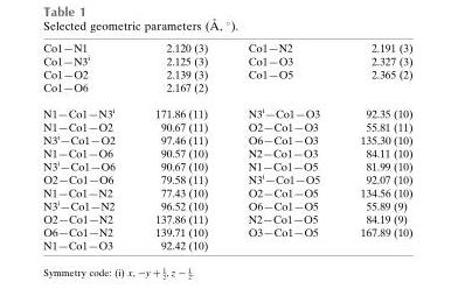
<table><tbody><tr><td>Co1—N1</td><td>2.120 (3)</td><td>Co1—N2</td><td>2.191 (3)</td></tr><tr><td>Co1—N3<sup>i</sup></td><td>2.125 (3)</td><td>Co1—O3</td><td>2.327 (3)</td></tr><tr><td>Co1—O2</td><td>2.139 (3)</td><td>Co1—O5</td><td>2.365 (2)</td></tr><tr><td>Co1—O6</td><td>2.167 (2)</td><td></td><td></td></tr><tr><td>N1—Co1—N3<sup>i</sup></td><td>171.86 (11)</td><td>N3<sup>i</sup>—Co1—O3</td><td>92.35 (10)</td></tr><tr><td>N1—Co1—O2</td><td>90.67 (11)</td><td>O2—Co1—O3</td><td>55.81 (11)</td></tr><tr><td>N3<sup>i</sup>—Co1—O2</td><td>97.46 (11)</td><td>O6—Co1—O3</td><td>135.30 (10)</td></tr><tr><td>N1—Co1—O6</td><td>90.57 (10)</td><td>N2—Co1—O3</td><td>84.11 (10)</td></tr><tr><td>N3<sup>i</sup>—Co1—O6</td><td>90.67 (10)</td><td>N1—Co1—O5</td><td>81.99 (10)</td></tr><tr><td>O2—Co1—O6</td><td>79.58 (11)</td><td>N3<sup>i</sup>—Co1—O5</td><td>92.07 (10)</td></tr><tr><td>N1—Co1—N2</td><td>77.43 (10)</td><td>O2—Co1—O5</td><td>134.56 (10)</td></tr><tr><td>N3<sup>i</sup>—Co1—N2</td><td>96.52 (10)</td><td>O6—Co1—O5</td><td>55.89 (9)</td></tr><tr><td>O2—Co1—N2</td><td>137.86 (11)</td><td>N2—Co1—O5</td><td>84.19 (9)</td></tr><tr><td>O6—Co1—N2</td><td>139.71 (10)</td><td>O3—Co1—O5</td><td>167.89 (10)</td></tr><tr><td>N1—Co1—O3</td><td>92.42 (10)</td><td></td><td></td></tr></tbody></table>